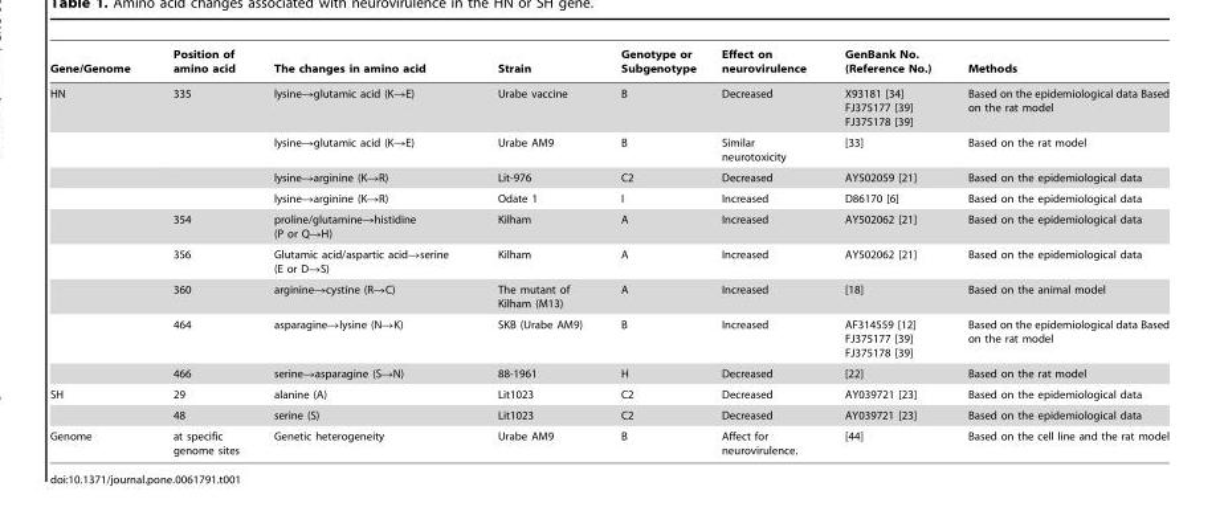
<table><thead><tr><td>Gene/Genome</td><td>Position of amino acid</td><td>The changes in amino acid</td><td>Strain</td><td>Genotype or Subgenotype</td><td>Effect on neurovirulence</td><td>GenBank No. (Reference No.)</td><td>Methods</td></tr></thead><tbody><tr><td rowspan="9">HN</td><td>335</td><td>lysine→glutamic acid (K→E)</td><td>Urabe vaccine</td><td>B</td><td>Decreased</td><td>X93181 [34] FJ375177 [39] FJ375178 [39]</td><td>Based on the epidemiological data Based on the rat model</td></tr><tr><td></td><td>lysine→glutamic acid (K→E)</td><td>Urabe AM9</td><td>B</td><td>Similar neurotoxicity</td><td>[33]</td><td>Based on the rat model</td></tr><tr><td></td><td>lysine→arginine (K→R)</td><td>Lit-976</td><td>C2</td><td>Decreased</td><td>AY502059 [21]</td><td>Based on the epidemiological data</td></tr><tr><td></td><td>lysine→arginine (K→R)</td><td>Odate 1</td><td>I</td><td>Increased</td><td>D86170 [6]</td><td>Based on the epidemiological data</td></tr><tr><td>354</td><td>proline/glutamine→histidine (P or Q→H)</td><td>Kilham</td><td>A</td><td>Increased</td><td>AY502062 [21]</td><td>Based on the epidemiological data</td></tr><tr><td>356</td><td>Glutamic acid/aspartic acid→serine (E or D→S)</td><td>Kilham</td><td>A</td><td>Increased</td><td>AY502062 [21]</td><td>Based on the epidemiological data</td></tr><tr><td>360</td><td>arginine→cystine (R→C)</td><td>The mutant of Kilham (M13)</td><td>A</td><td>Increased</td><td>[18]</td><td>Based on the animal model</td></tr><tr><td>464</td><td>asparagine→lysine (N→K)</td><td>SKB (Urabe AM9)</td><td>B</td><td>Increased</td><td>AF314559 [12] FJ375177 [39] FJ375178 [39]</td><td>Based on the epidemiological data Based on the rat model</td></tr><tr><td>466</td><td>serine→asparagine (S→N)</td><td>88-1961</td><td>H</td><td>Decreased</td><td>[22]</td><td>Based on the rat model</td></tr><tr><td rowspan="2">SH</td><td>29</td><td>alanine (A)</td><td>Lit1023</td><td>C2</td><td>Decreased</td><td>AY039721 [23]</td><td>Based on the epidemiological data</td></tr><tr><td>48</td><td>serine (S)</td><td>Lit1023</td><td>C2</td><td>Decreased</td><td>AY039721 [23]</td><td>Based on the epidemiological data</td></tr><tr><td>Genome</td><td>at specific genome sites</td><td>Genetic heterogeneity</td><td>Urabe AM9</td><td>B</td><td>Affect for neurovirulence.</td><td>[44]</td><td>Based on the cell line and the rat model</td></tr></tbody></table>